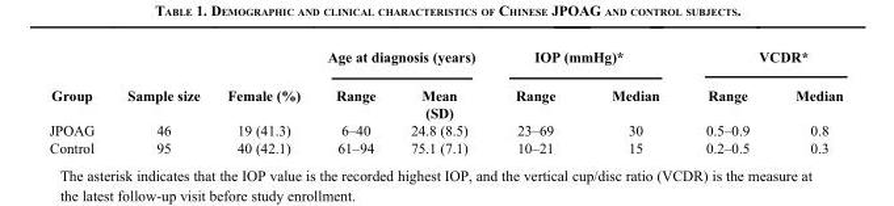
<table><thead><tr><td rowspan="2">Group</td><td rowspan="2">Sample size</td><td rowspan="2">Female (%)</td><td colspan="2">Age at diagnosis (years)</td><td colspan="2">IOP (mmHg)*</td><td colspan="2">VCDR*</td></tr><tr><td>Range</td><td>Mean (SD)</td><td>Range</td><td>Median</td><td>Range</td><td>Median</td></tr></thead><tbody><tr><td>JPOAG</td><td>46</td><td>19 (41.3)</td><td>6–40</td><td>24.8 (8.5)</td><td>23–69</td><td>30</td><td>0.5–0.9</td><td>0.8</td></tr><tr><td>Control</td><td>95</td><td>40 (42.1)</td><td>61–94</td><td>75.1 (7.1)</td><td>10–21</td><td>15</td><td>0.2–0.5</td><td>0.3</td></tr></tbody></table>